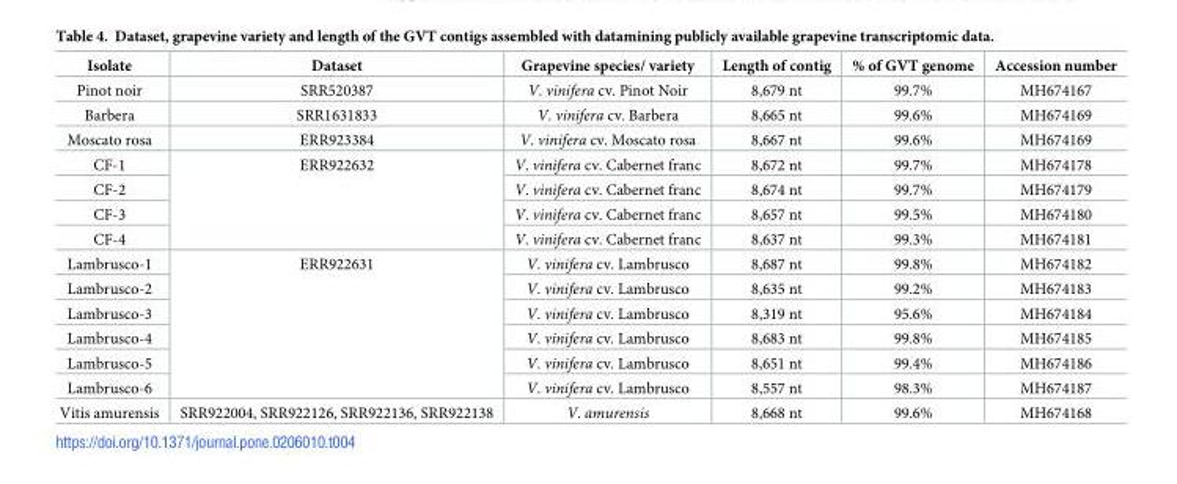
<table><thead><tr><td>Isolate</td><td>Dataset</td><td>Grapevine species/ variety</td><td>Length of contig</td><td>% of GVT genome</td><td>Accession number</td></tr></thead><tbody><tr><td>Pinot noir</td><td>SRR520387</td><td>V. vinifera cv. Pinot Noir</td><td>8,679 nt</td><td>99.7%</td><td>MH674167</td></tr><tr><td>Barbera</td><td>SRR1631833</td><td>V. vinifera cv. Barbera</td><td>8,665 nt</td><td>99.6%</td><td>MH674169</td></tr><tr><td>Moscato rosa</td><td>ERR923384</td><td>V. vinifera cv. Moscato rosa</td><td>8,667 nt</td><td>99.6%</td><td>MH674169</td></tr><tr><td>CF-1</td><td rowspan="4">ERR922632</td><td>V. vinifera cv. Cabernet franc</td><td>8,672 nt</td><td>99.7%</td><td>MH674178</td></tr><tr><td>CF-2</td><td>V. vinifera cv. Cabernet franc</td><td>8,674 nt</td><td>99.7%</td><td>MH674179</td></tr><tr><td>CF-3</td><td>V. vinifera cv. Cabernet franc</td><td>8,657 nt</td><td>99.5%</td><td>MH674180</td></tr><tr><td>CF-4</td><td>V. vinifera cv. Cabernet franc</td><td>8,637 nt</td><td>99.3%</td><td>MH674181</td></tr><tr><td>Lambrusco-1</td><td rowspan="6">ERR922631</td><td>V. vinifera cv. Lambrusco</td><td>8,687 nt</td><td>99.8%</td><td>MH674182</td></tr><tr><td>Lambrusco-2</td><td>V. vinifera cv. Lambrusco</td><td>8,635 nt</td><td>99.2%</td><td>MH674183</td></tr><tr><td>Lambrusco-3</td><td>V. vinifera cv. Lambrusco</td><td>8,319 nt</td><td>95.6%</td><td>MH674184</td></tr><tr><td>Lambrusco-4</td><td>V. vinifera cv. Lambrusco</td><td>8,683 nt</td><td>99.8%</td><td>MH674185</td></tr><tr><td>Lambrusco-5</td><td>V. vinifera cv. Lambrusco</td><td>8,651 nt</td><td>99.4%</td><td>MH674186</td></tr><tr><td>Lambrusco-6</td><td>V. vinifera cv. Lambrusco</td><td>8,557 nt</td><td>98.3%</td><td>MH674187</td></tr><tr><td>Vitis amurensis</td><td>SRR922004, SRR922126, SRR922136, SRR922138</td><td>V. amurensis</td><td>8,668 nt</td><td>99.6%</td><td>MH674168</td></tr></tbody></table>